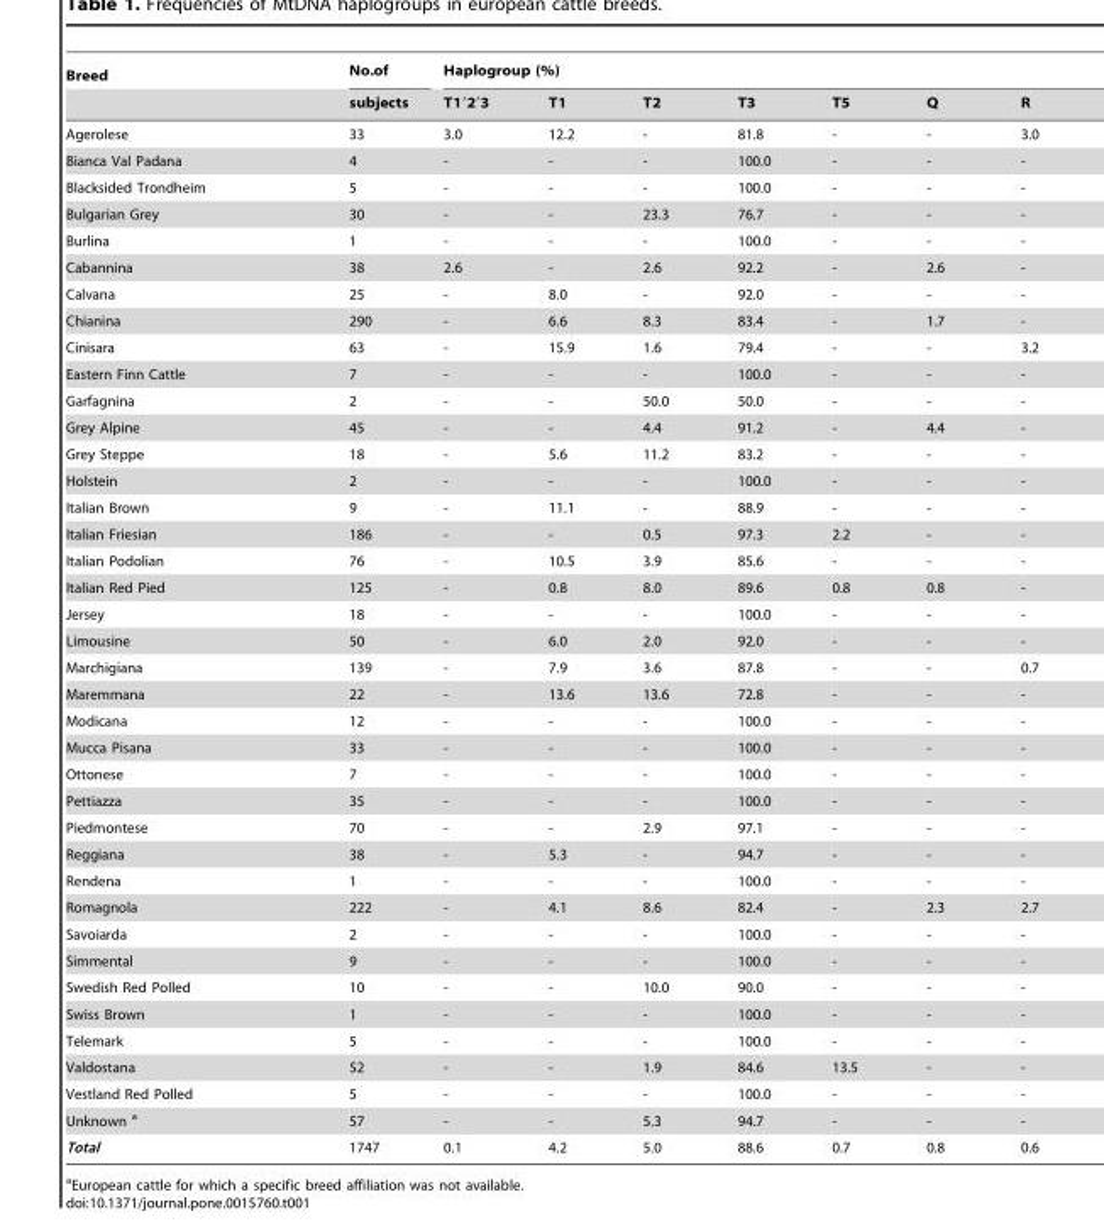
<table><thead><tr><td rowspan="2">Breed</td><td rowspan="2">No.of subjects</td><td colspan="7">Haplogroup (%)</td></tr><tr><td>T1′2′3</td><td>T1</td><td>T2</td><td>T3</td><td>T5</td><td>Q</td><td>R</td></tr></thead><tbody><tr><td>Agerolese</td><td>33</td><td>3.0</td><td>12.2</td><td>-</td><td>81.8</td><td>-</td><td>-</td><td>3.0</td></tr><tr><td>Bianca Val Padana</td><td>4</td><td>-</td><td>-</td><td>-</td><td>100.0</td><td>-</td><td>-</td><td>-</td></tr><tr><td>Blacksided Trondheim</td><td>5</td><td>-</td><td>-</td><td>-</td><td>100.0</td><td>-</td><td>-</td><td>-</td></tr><tr><td>Bulgarian Grey</td><td>30</td><td>-</td><td>-</td><td>23.3</td><td>76.7</td><td>-</td><td>-</td><td>-</td></tr><tr><td>Burlina</td><td>1</td><td>-</td><td>-</td><td>-</td><td>100.0</td><td>-</td><td>-</td><td>-</td></tr><tr><td>Cabannina</td><td>38</td><td>2.6</td><td>-</td><td>2.6</td><td>92.2</td><td>-</td><td>2.6</td><td>-</td></tr><tr><td>Calvana</td><td>25</td><td>-</td><td>8.0</td><td>-</td><td>92.0</td><td>-</td><td>-</td><td>-</td></tr><tr><td>Chianina</td><td>290</td><td>-</td><td>6.6</td><td>8.3</td><td>83.4</td><td>-</td><td>1.7</td><td>-</td></tr><tr><td>Cinisara</td><td>63</td><td>-</td><td>15.9</td><td>1.6</td><td>79.4</td><td>-</td><td>-</td><td>3.2</td></tr><tr><td>Eastern Finn Cattle</td><td>7</td><td>-</td><td>-</td><td>-</td><td>100.0</td><td>-</td><td>-</td><td>-</td></tr><tr><td>Garfagnina</td><td>2</td><td>-</td><td>-</td><td>50.0</td><td>50.0</td><td>-</td><td>-</td><td>-</td></tr><tr><td>Grey Alpine</td><td>45</td><td>-</td><td>-</td><td>4.4</td><td>91.2</td><td>-</td><td>4.4</td><td>-</td></tr><tr><td>Grey Steppe</td><td>18</td><td>-</td><td>5.6</td><td>11.2</td><td>83.2</td><td>-</td><td>-</td><td>-</td></tr><tr><td>Holstein</td><td>2</td><td>-</td><td>-</td><td>-</td><td>100.0</td><td>-</td><td>-</td><td>-</td></tr><tr><td>Italian Brown</td><td>9</td><td>-</td><td>11.1</td><td>-</td><td>88.9</td><td>-</td><td>-</td><td>-</td></tr><tr><td>Italian Friesian</td><td>186</td><td>-</td><td>-</td><td>0.5</td><td>97.3</td><td>2.2</td><td>-</td><td>-</td></tr><tr><td>Italian Podolian</td><td>76</td><td>-</td><td>10.5</td><td>3.9</td><td>85.6</td><td>-</td><td>-</td><td>-</td></tr><tr><td>Italian Red Pied</td><td>125</td><td>-</td><td>0.8</td><td>8.0</td><td>89.6</td><td>0.8</td><td>0.8</td><td>-</td></tr><tr><td>Jersey</td><td>18</td><td>-</td><td>-</td><td>-</td><td>100.0</td><td>-</td><td>-</td><td>-</td></tr><tr><td>Limousine</td><td>50</td><td>-</td><td>6.0</td><td>2.0</td><td>92.0</td><td>-</td><td>-</td><td>-</td></tr><tr><td>Marchigiana</td><td>139</td><td>-</td><td>7.9</td><td>3.6</td><td>87.8</td><td>-</td><td>-</td><td>0.7</td></tr><tr><td>Maremmana</td><td>22</td><td>-</td><td>13.6</td><td>13.6</td><td>72.8</td><td>-</td><td>-</td><td>-</td></tr><tr><td>Modicana</td><td>12</td><td>-</td><td>-</td><td>-</td><td>100.0</td><td>-</td><td>-</td><td>-</td></tr><tr><td>Mucca Pisana</td><td>33</td><td>-</td><td>-</td><td>-</td><td>100.0</td><td>-</td><td>-</td><td>-</td></tr><tr><td>Ottonese</td><td>7</td><td>-</td><td>-</td><td>-</td><td>100.0</td><td>-</td><td>-</td><td>-</td></tr><tr><td>Pettiazza</td><td>35</td><td>-</td><td>-</td><td>-</td><td>100.0</td><td>-</td><td>-</td><td>-</td></tr><tr><td>Piedmontese</td><td>70</td><td>-</td><td>-</td><td>2.9</td><td>97.1</td><td>-</td><td>-</td><td>-</td></tr><tr><td>Reggiana</td><td>38</td><td>-</td><td>5.3</td><td>-</td><td>94.7</td><td>-</td><td>-</td><td>-</td></tr><tr><td>Rendena</td><td>1</td><td>-</td><td>-</td><td>-</td><td>100.0</td><td>-</td><td>-</td><td>-</td></tr><tr><td>Romagnola</td><td>222</td><td>-</td><td>4.1</td><td>8.6</td><td>82.4</td><td>-</td><td>2.3</td><td>2.7</td></tr><tr><td>Savoiarda</td><td>2</td><td>-</td><td>-</td><td>-</td><td>100.0</td><td>-</td><td>-</td><td>-</td></tr><tr><td>Simmental</td><td>9</td><td>-</td><td>-</td><td>-</td><td>100.0</td><td>-</td><td>-</td><td>-</td></tr><tr><td>Swedish Red Polled</td><td>10</td><td>-</td><td>-</td><td>10.0</td><td>90.0</td><td>-</td><td>-</td><td>-</td></tr><tr><td>Swiss Brown</td><td>1</td><td>-</td><td>-</td><td>-</td><td>100.0</td><td>-</td><td>-</td><td>-</td></tr><tr><td>Telemark</td><td>5</td><td>-</td><td>-</td><td>-</td><td>100.0</td><td>-</td><td>-</td><td>-</td></tr><tr><td>Valdostana</td><td>52</td><td>-</td><td>-</td><td>1.9</td><td>84.6</td><td>13.5</td><td>-</td><td>-</td></tr><tr><td>Vestland Red Polled</td><td>5</td><td>-</td><td>-</td><td>-</td><td>100.0</td><td>-</td><td>-</td><td>-</td></tr><tr><td>Unknown a</td><td>57</td><td>-</td><td>-</td><td>5.3</td><td>94.7</td><td>-</td><td>-</td><td>-</td></tr><tr><td>Total</td><td>1747</td><td>0.1</td><td>4.2</td><td>5.0</td><td>88.6</td><td>0.7</td><td>0.8</td><td>0.6</td></tr></tbody></table>